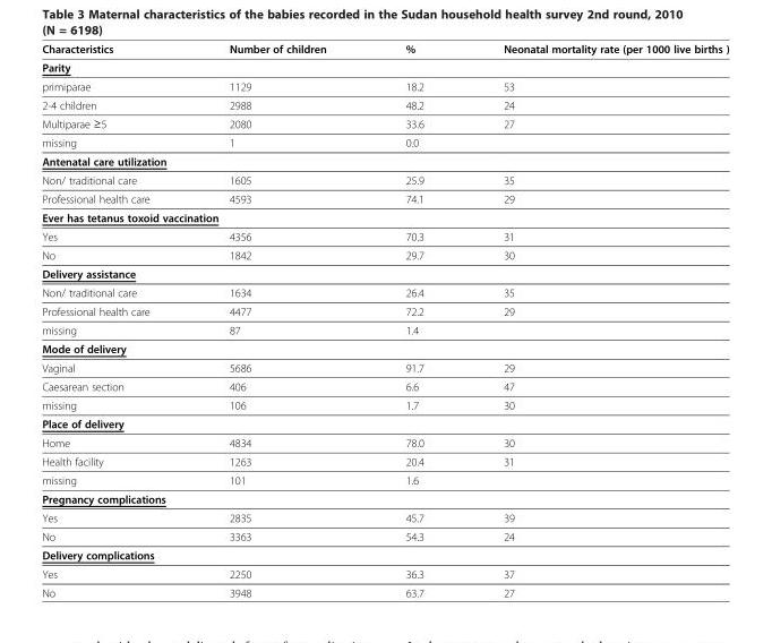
<table><thead><tr><td>Characteristics</td><td>Number of children</td><td>%</td><td>Neonatal mortality rate (per 1000 live births )</td></tr></thead><tbody><tr><td colspan="4">Parity</td></tr><tr><td>primiparae</td><td>1129</td><td>18.2</td><td>53</td></tr><tr><td>2-4 children</td><td>2988</td><td>48.2</td><td>24</td></tr><tr><td>Multiparae ≥5</td><td>2080</td><td>33.6</td><td>27</td></tr><tr><td>missing</td><td>1</td><td>0.0</td><td></td></tr><tr><td colspan="4">Antenatal care utilization</td></tr><tr><td>Non/ traditional care</td><td>1605</td><td>25.9</td><td>35</td></tr><tr><td>Professional health care</td><td>4593</td><td>74.1</td><td>29</td></tr><tr><td colspan="4">Ever has tetanus toxoid vaccination</td></tr><tr><td>Yes</td><td>4356</td><td>70.3</td><td>31</td></tr><tr><td>No</td><td>1842</td><td>29.7</td><td>30</td></tr><tr><td colspan="4">Delivery assistance</td></tr><tr><td>Non/ traditional care</td><td>1634</td><td>26.4</td><td>35</td></tr><tr><td>Professional health care</td><td>4477</td><td>72.2</td><td>29</td></tr><tr><td>missing</td><td>87</td><td>1.4</td><td></td></tr><tr><td colspan="4">Mode of delivery</td></tr><tr><td>Vaginal</td><td>5686</td><td>91.7</td><td>29</td></tr><tr><td>Caesarean section</td><td>406</td><td>6.6</td><td>47</td></tr><tr><td>missing</td><td>106</td><td>1.7</td><td>30</td></tr><tr><td colspan="4">Place of delivery</td></tr><tr><td>Home</td><td>4834</td><td>78.0</td><td>30</td></tr><tr><td>Health facility</td><td>1263</td><td>20.4</td><td>31</td></tr><tr><td>missing</td><td>101</td><td>1.6</td><td></td></tr><tr><td colspan="4">Pregnancy complications</td></tr><tr><td>Yes</td><td>2835</td><td>45.7</td><td>39</td></tr><tr><td>No</td><td>3363</td><td>54.3</td><td>24</td></tr><tr><td colspan="4">Delivery complications</td></tr><tr><td>Yes</td><td>2250</td><td>36.3</td><td>37</td></tr><tr><td>No</td><td>3948</td><td>63.7</td><td>27</td></tr></tbody></table>